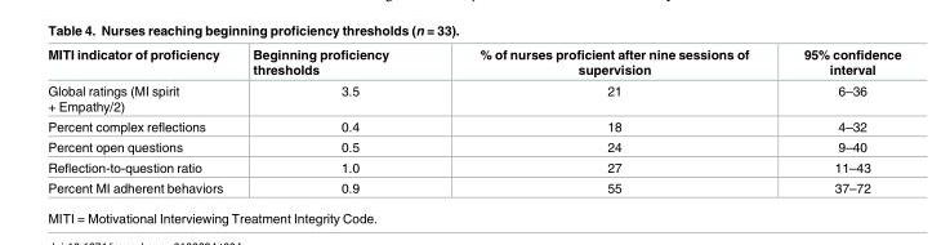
<table><thead><tr><td>MITI indicator of proficiency</td><td>Beginning proficiency thresholds</td><td>% of nurses proficient after nine sessions of supervision</td><td>95% confidence interval</td></tr></thead><tbody><tr><td>Global ratings (MI spirit + Empathy/2)</td><td>3.5</td><td>21</td><td>6–36</td></tr><tr><td>Percent complex reflections</td><td>0.4</td><td>18</td><td>4–32</td></tr><tr><td>Percent open questions</td><td>0.5</td><td>24</td><td>9–40</td></tr><tr><td>Reflection-to-question ratio</td><td>1.0</td><td>27</td><td>11–43</td></tr><tr><td>Percent MI adherent behaviors</td><td>0.9</td><td>55</td><td>37–72</td></tr></tbody></table>